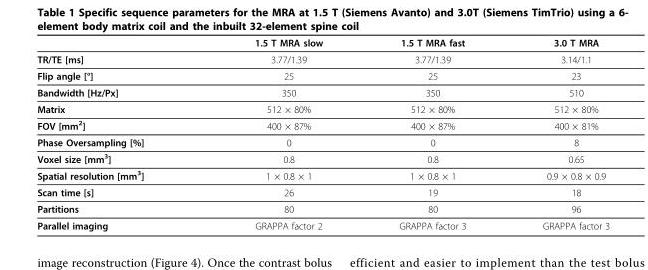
<table><thead><tr><td></td><td>1.5 T MRA slow</td><td>1.5 T MRA fast</td><td>3.0 T MRA</td></tr></thead><tbody><tr><td>TR/TE [ms]</td><td>3.77/1.39</td><td>3.77/1.39</td><td>3.14/1.1</td></tr><tr><td>Flip angle [°]</td><td>25</td><td>25</td><td>23</td></tr><tr><td>Bandwidth [Hz/Px]</td><td>350</td><td>350</td><td>510</td></tr><tr><td>Matrix</td><td>512 × 80%</td><td>512 × 80%</td><td>512 × 80%</td></tr><tr><td>FOV [mm<sup>2</sup>]</td><td>400 × 87%</td><td>400 × 87%</td><td>400 × 81%</td></tr><tr><td>Phase Oversampling [%]</td><td>0</td><td>0</td><td>8</td></tr><tr><td>Voxel size [mm<sup>3</sup>]</td><td>0.8</td><td>0.8</td><td>0.65</td></tr><tr><td>Spatial resolution [mm<sup>3</sup>]</td><td>1 × 0.8 × 1</td><td>1 × 0.8 × 1</td><td>0.9 × 0.8 × 0.9</td></tr><tr><td>Scan time [s]</td><td>26</td><td>19</td><td>18</td></tr><tr><td>Partitions</td><td>80</td><td>80</td><td>96</td></tr><tr><td>Parallel imaging</td><td>GRAPPA factor 2</td><td>GRAPPA factor 3</td><td>GRAPPA factor 3</td></tr></tbody></table>